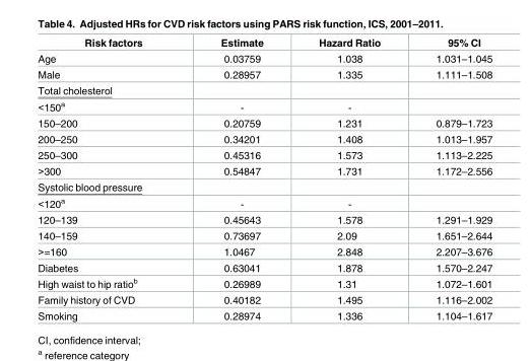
<table><thead><tr><td>Risk factors</td><td>Estimate</td><td>Hazard Ratio</td><td>95% CI</td></tr></thead><tbody><tr><td>Age</td><td>0.03759</td><td>1.038</td><td>1.031–1.045</td></tr><tr><td>Male</td><td>0.28957</td><td>1.335</td><td>1.111–1.508</td></tr><tr><td colspan="4">Total cholesterol</td></tr><tr><td>&lt;150<sup>a</sup></td><td>-</td><td>-</td><td></td></tr><tr><td>150–200</td><td>0.20759</td><td>1.231</td><td>0.879–1.723</td></tr><tr><td>200–250</td><td>0.34201</td><td>1.408</td><td>1.013–1.957</td></tr><tr><td>250–300</td><td>0.45316</td><td>1.573</td><td>1.113–2.225</td></tr><tr><td>&gt;300</td><td>0.54847</td><td>1.731</td><td>1.172–2.556</td></tr><tr><td colspan="4">Systolic blood pressure</td></tr><tr><td>&lt;120<sup>a</sup></td><td>-</td><td>-</td><td></td></tr><tr><td>120–139</td><td>0.45643</td><td>1.578</td><td>1.291–1.929</td></tr><tr><td>140–159</td><td>0.73697</td><td>2.09</td><td>1.651–2.644</td></tr><tr><td>&gt;=160</td><td>1.0467</td><td>2.848</td><td>2.207–3.676</td></tr><tr><td>Diabetes</td><td>0.63041</td><td>1.878</td><td>1.570–2.247</td></tr><tr><td>High waist to hip ratio<sup>b</sup></td><td>0.26989</td><td>1.31</td><td>1.072–1.601</td></tr><tr><td>Family history of CVD</td><td>0.40182</td><td>1.495</td><td>1.116–2.002</td></tr><tr><td>Smoking</td><td>0.28974</td><td>1.336</td><td>1.104–1.617</td></tr></tbody></table>